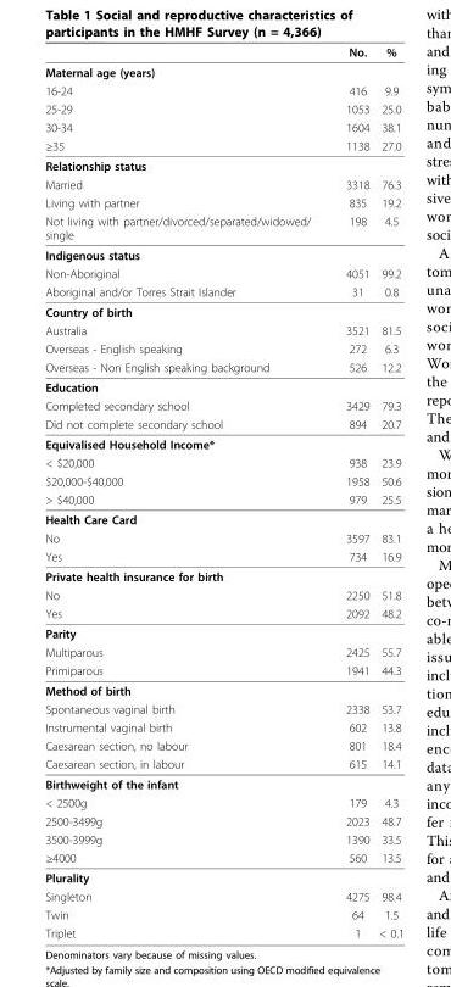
<table><thead><tr><td></td><td>No.</td><td>%</td></tr></thead><tbody><tr><td colspan="3">Maternal age (years)</td></tr><tr><td>16-24</td><td>416</td><td>9.9</td></tr><tr><td>25-29</td><td>1053</td><td>25.0</td></tr><tr><td>30-34</td><td>1604</td><td>38.1</td></tr><tr><td>≥35</td><td>1138</td><td>27.0</td></tr><tr><td colspan="3">Relationship status</td></tr><tr><td>Married</td><td>3318</td><td>76.3</td></tr><tr><td>Living with partner</td><td>835</td><td>19.2</td></tr><tr><td>Not living with partner/divorced/separated/widowed/ single</td><td>198</td><td>4.5</td></tr><tr><td colspan="3">Indigenous status</td></tr><tr><td>Non-Aboriginal</td><td>4051</td><td>99.2</td></tr><tr><td>Aboriginal and/or Torres Strait Islander</td><td>31</td><td>0.8</td></tr><tr><td colspan="3">Country of birth</td></tr><tr><td>Australia</td><td>3521</td><td>81.5</td></tr><tr><td>Overseas - English speaking</td><td>272</td><td>6.3</td></tr><tr><td>Overseas - Non English speaking background</td><td>526</td><td>12.2</td></tr><tr><td colspan="3">Education</td></tr><tr><td>Completed secondary school</td><td>3429</td><td>79.3</td></tr><tr><td>Did not complete secondary school</td><td>894</td><td>20.7</td></tr><tr><td colspan="3">Equivalised Household Income*</td></tr><tr><td>&lt; $20,000</td><td>938</td><td>23.9</td></tr><tr><td>$20,000-$40,000</td><td>1958</td><td>50.6</td></tr><tr><td>&gt; $40,000</td><td>979</td><td>25.5</td></tr><tr><td colspan="3">Health Care Card</td></tr><tr><td>No</td><td>3597</td><td>83.1</td></tr><tr><td>Yes</td><td>734</td><td>16.9</td></tr><tr><td colspan="3">Private health insurance for birth</td></tr><tr><td>No</td><td>2250</td><td>51.8</td></tr><tr><td>Yes</td><td>2092</td><td>48.2</td></tr><tr><td colspan="3">Parity</td></tr><tr><td>Multiparous</td><td>2425</td><td>55.7</td></tr><tr><td>Primiparous</td><td>1941</td><td>44.3</td></tr><tr><td colspan="3">Method of birth</td></tr><tr><td>Spontaneous vaginal birth</td><td>2338</td><td>53.7</td></tr><tr><td>Instrumental vaginal birth</td><td>602</td><td>13.8</td></tr><tr><td>Caesarean section, no labour</td><td>801</td><td>18.4</td></tr><tr><td>Caesarean section, in labour</td><td>615</td><td>14.1</td></tr><tr><td colspan="3">Birthweight of the infant</td></tr><tr><td>&lt; 2500g</td><td>179</td><td>4.3</td></tr><tr><td>2500-3499g</td><td>2023</td><td>48.7</td></tr><tr><td>3500-3999g</td><td>1390</td><td>33.5</td></tr><tr><td>≥4000</td><td>560</td><td>13.5</td></tr><tr><td colspan="3">Plurality</td></tr><tr><td>Singleton</td><td>4275</td><td>98.4</td></tr><tr><td>Twin</td><td>64</td><td>1.5</td></tr><tr><td>Triplet</td><td>1</td><td>&lt; 0.1</td></tr></tbody></table>